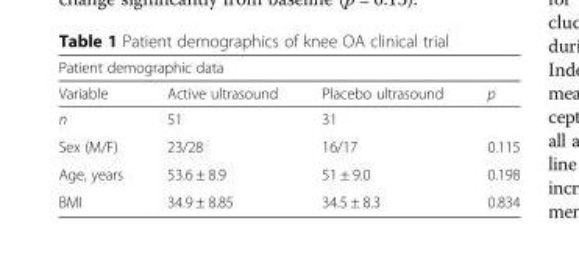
<table><thead><tr><td colspan="4">Patient demographic data</td></tr><tr><td>Variable</td><td>Active ultrasound</td><td>Placebo ultrasound</td><td>p</td></tr></thead><tbody><tr><td>n</td><td>51</td><td>31</td><td></td></tr><tr><td>Sex (M/F)</td><td>23/28</td><td>16/17</td><td>0.115</td></tr><tr><td>Age, years</td><td>53.6 ± 8.9</td><td>51 ± 9.0</td><td>0.198</td></tr><tr><td>BMI</td><td>34.9 ± 8.85</td><td>34.5 ± 8.3</td><td>0.834</td></tr></tbody></table>